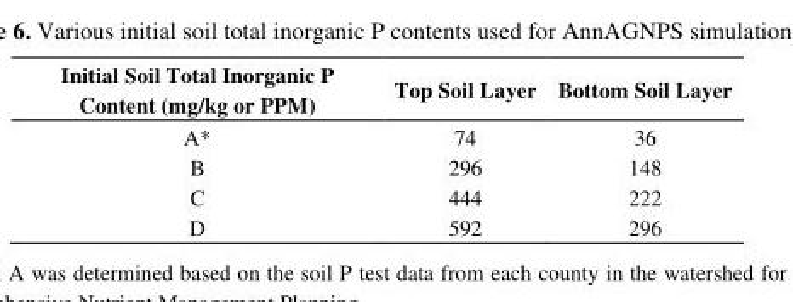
<table><thead><tr><td>Initial Soil Total Inorganic P Content (mg/kg or PPM)</td><td>Top Soil Layer</td><td>Bottom Soil Layer</td></tr></thead><tbody><tr><td>A*</td><td>74</td><td>36</td></tr><tr><td>B</td><td>296</td><td>148</td></tr><tr><td>C</td><td>444</td><td>222</td></tr><tr><td>D</td><td>592</td><td>296</td></tr></tbody></table>